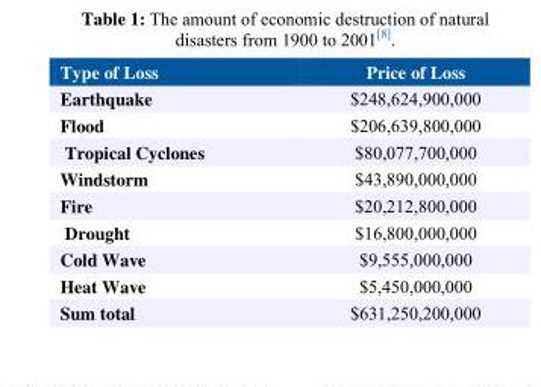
<table><thead><tr><td>Type of Loss</td><td>Price of Loss</td></tr></thead><tbody><tr><td>Earthquake</td><td>$248,624,900,000</td></tr><tr><td>Flood</td><td>$206,639,800,000</td></tr><tr><td>Tropical Cyclones</td><td>$80,077,700,000</td></tr><tr><td>Windstorm</td><td>$43,890,000,000</td></tr><tr><td>Fire</td><td>$20,212,800,000</td></tr><tr><td>Drought</td><td>$16,800,000,000</td></tr><tr><td>Cold Wave</td><td>$9,555,000,000</td></tr><tr><td>Heat Wave</td><td>$5,450,000,000</td></tr><tr><td>Sum total</td><td>$631,250,200,000</td></tr></tbody></table>